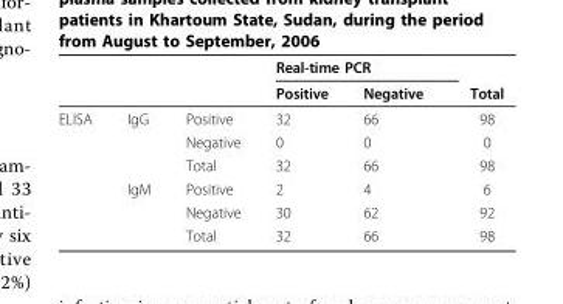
<table><thead><tr><td rowspan="2"></td><td rowspan="2"></td><td rowspan="2"></td><td colspan="2">Real-time PCR</td><td rowspan="2">Total</td></tr><tr><td>Positive</td><td>Negative</td></tr></thead><tbody><tr><td rowspan="6">ELISA</td><td>IgG</td><td>Positive</td><td>32</td><td>66</td><td>98</td></tr><tr><td></td><td>Negative</td><td>0</td><td>0</td><td>0</td></tr><tr><td></td><td>Total</td><td>32</td><td>66</td><td>98</td></tr><tr><td>IgM</td><td>Positive</td><td>2</td><td>4</td><td>6</td></tr><tr><td></td><td>Negative</td><td>30</td><td>62</td><td>92</td></tr><tr><td></td><td>Total</td><td>32</td><td>66</td><td>98</td></tr></tbody></table>